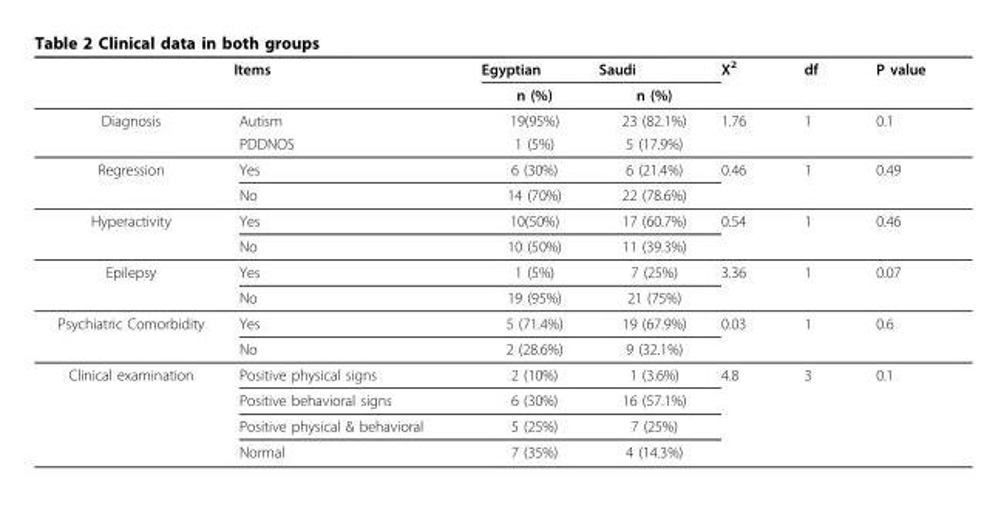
<table><thead><tr><td colspan="2">Items</td><td rowspan="2">Egyptian n (%)</td><td rowspan="2">Saudi n (%)</td><td rowspan="2">X2</td><td rowspan="2">df</td><td rowspan="2">P value</td></tr><tr><td></td><td></td></tr></thead><tbody><tr><td rowspan="2">Diagnosis</td><td>Autism</td><td>19(95%)</td><td>23 (82.1%)</td><td>1.76</td><td>1</td><td>0.1</td></tr><tr><td>PDDNOS</td><td>1 (5%)</td><td>5 (17.9%)</td><td></td><td></td><td></td></tr><tr><td rowspan="2">Regression</td><td>Yes</td><td>6 (30%)</td><td>6 (21.4%)</td><td>0.46</td><td>1</td><td>0.49</td></tr><tr><td>No</td><td>14 (70%)</td><td>22 (78.6%)</td><td></td><td></td><td></td></tr><tr><td rowspan="2">Hyperactivity</td><td>Yes</td><td>10(50%)</td><td>17 (60.7%)</td><td>0.54</td><td>1</td><td>0.46</td></tr><tr><td>No</td><td>10 (50%)</td><td>11 (39.3%)</td><td></td><td></td><td></td></tr><tr><td rowspan="2">Epilepsy</td><td>Yes</td><td>1 (5%)</td><td>7 (25%)</td><td>3.36</td><td>1</td><td>0.07</td></tr><tr><td>No</td><td>19 (95%)</td><td>21 (75%)</td><td></td><td></td><td></td></tr><tr><td rowspan="2">Psychiatric Comorbidity</td><td>Yes</td><td>5 (71.4%)</td><td>19 (67.9%)</td><td>0.03</td><td>1</td><td>0.6</td></tr><tr><td>No</td><td>2 (28.6%)</td><td>9 (32.1%)</td><td></td><td></td><td></td></tr><tr><td rowspan="4">Clinical examination</td><td>Positive physical signs</td><td>2 (10%)</td><td>1 (3.6%)</td><td>4.8</td><td>3</td><td>0.1</td></tr><tr><td>Positive behavioral signs</td><td>6 (30%)</td><td>16 (57.1%)</td><td></td><td></td><td></td></tr><tr><td>Positive physical &amp; behavioral</td><td>5 (25%)</td><td>7 (25%)</td><td></td><td></td><td></td></tr><tr><td>Normal</td><td>7 (35%)</td><td>4 (14.3%)</td><td></td><td></td><td></td></tr></tbody></table>